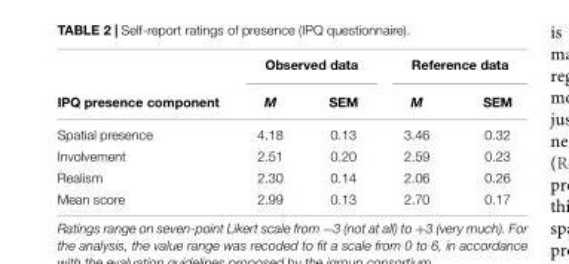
<table><thead><tr><td rowspan="2">IPQ presence component</td><td colspan="2">Observed data</td><td colspan="2">Reference data</td></tr><tr><td>M</td><td>SEM</td><td>M</td><td>SEM</td></tr></thead><tbody><tr><td>Spatial presence</td><td>4.18</td><td>0.13</td><td>3.46</td><td>0.32</td></tr><tr><td>Involvement</td><td>2.51</td><td>0.20</td><td>2.59</td><td>0.23</td></tr><tr><td>Realism</td><td>2.30</td><td>0.14</td><td>2.06</td><td>0.26</td></tr><tr><td>Mean score</td><td>2.99</td><td>0.13</td><td>2.70</td><td>0.17</td></tr></tbody></table>